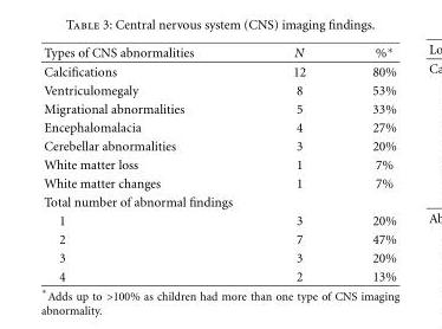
<table><thead><tr><td>Types of CNS abnormalities</td><td>N</td><td>%∗</td></tr></thead><tbody><tr><td>Calcifications</td><td>12</td><td>80%</td></tr><tr><td>Ventriculomegaly</td><td>8</td><td>53%</td></tr><tr><td>Migrational abnormalities</td><td>5</td><td>33%</td></tr><tr><td>Encephalomalacia</td><td>4</td><td>27%</td></tr><tr><td>Cerebellar abnormalities</td><td>3</td><td>20%</td></tr><tr><td>White matter loss</td><td>1</td><td>7%</td></tr><tr><td>White matter changes</td><td>1</td><td>7%</td></tr><tr><td colspan="3">Total number of abnormal findings</td></tr><tr><td>1</td><td>3</td><td>20%</td></tr><tr><td>2</td><td>7</td><td>47%</td></tr><tr><td>3</td><td>3</td><td>20%</td></tr><tr><td>4</td><td>2</td><td>13%</td></tr></tbody></table>